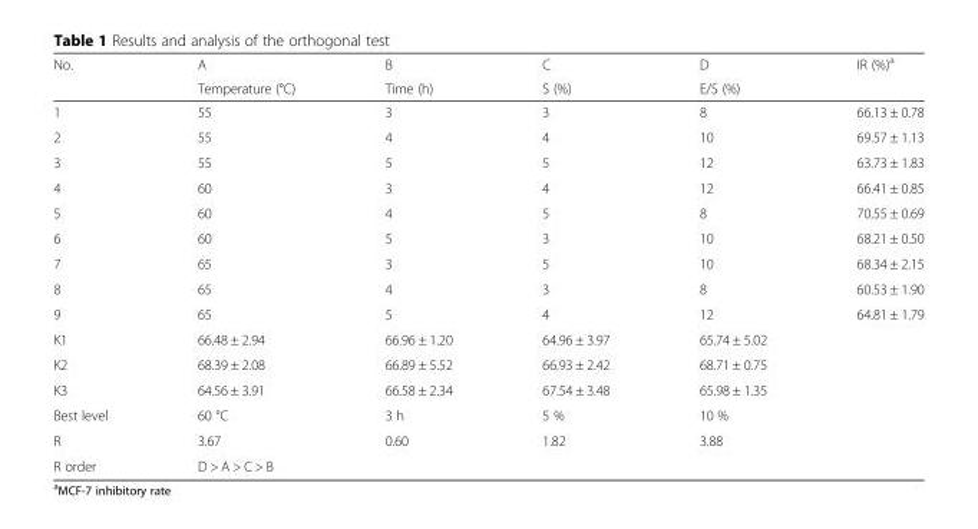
<table><thead><tr><td rowspan="2">No.</td><td rowspan="2">A Temperature (°C)</td><td rowspan="2">B Time (h)</td><td rowspan="2">C S (%)</td><td rowspan="2">D E/S (%)</td><td rowspan="2">IR (%)<sup>a</sup></td></tr><tr></tr></thead><tbody><tr><td>1</td><td>55</td><td>3</td><td>3</td><td>8</td><td>66.13 ± 0.78</td></tr><tr><td>2</td><td>55</td><td>4</td><td>4</td><td>10</td><td>69.57 ± 1.13</td></tr><tr><td>3</td><td>55</td><td>5</td><td>5</td><td>12</td><td>63.73 ± 1.83</td></tr><tr><td>4</td><td>60</td><td>3</td><td>4</td><td>12</td><td>66.41 ± 0.85</td></tr><tr><td>5</td><td>60</td><td>4</td><td>5</td><td>8</td><td>70.55 ± 0.69</td></tr><tr><td>6</td><td>60</td><td>5</td><td>3</td><td>10</td><td>68.21 ± 0.50</td></tr><tr><td>7</td><td>65</td><td>3</td><td>5</td><td>10</td><td>68.34 ± 2.15</td></tr><tr><td>8</td><td>65</td><td>4</td><td>3</td><td>8</td><td>60.53 ± 1.90</td></tr><tr><td>9</td><td>65</td><td>5</td><td>4</td><td>12</td><td>64.81 ± 1.79</td></tr><tr><td>K1</td><td>66.48 ± 2.94</td><td>66.96 ± 1.20</td><td>64.96 ± 3.97</td><td>65.74 ± 5.02</td><td></td></tr><tr><td>K2</td><td>68.39 ± 2.08</td><td>66.89 ± 5.52</td><td>66.93 ± 2.42</td><td>68.71 ± 0.75</td><td></td></tr><tr><td>K3</td><td>64.56 ± 3.91</td><td>66.58 ± 2.34</td><td>67.54 ± 3.48</td><td>65.98 ± 1.35</td><td></td></tr><tr><td>Best level</td><td>60 °C</td><td>3 h</td><td>5 %</td><td>10 %</td><td></td></tr><tr><td>R</td><td>3.67</td><td>0.60</td><td>1.82</td><td>3.88</td><td></td></tr><tr><td>R order</td><td colspan="5">D &gt; A &gt; C &gt; B</td></tr></tbody></table>